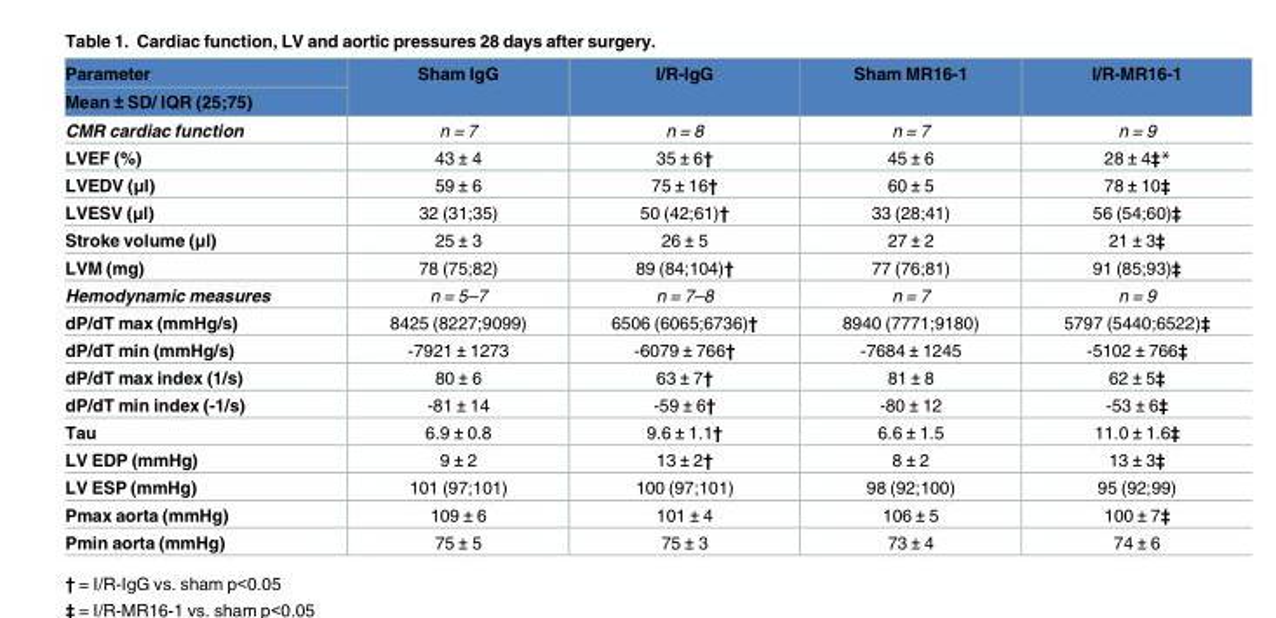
<table><thead><tr><td rowspan="2">Parameter Mean ± SD/ IQR (25;75)</td><td rowspan="2">Sham IgG</td><td rowspan="2">I/R-IgG</td><td rowspan="2">Sham MR16-1</td><td rowspan="2">I/R-MR16-1</td></tr><tr></tr></thead><tbody><tr><td>CMR cardiac function</td><td>n = 7</td><td>n = 8</td><td>n = 7</td><td>n = 9</td></tr><tr><td>LVEF (%)</td><td>43 ± 4</td><td>35 ± 6†</td><td>45 ± 6</td><td>28 ± 4‡*</td></tr><tr><td>LVEDV (μl)</td><td>59 ± 6</td><td>75 ± 16†</td><td>60 ± 5</td><td>78 ± 10‡</td></tr><tr><td>LVESV (μl)</td><td>32 (31;35)</td><td>50 (42;61)†</td><td>33 (28;41)</td><td>56 (54;60)‡</td></tr><tr><td>Stroke volume (μl)</td><td>25 ± 3</td><td>26 ± 5</td><td>27 ± 2</td><td>21 ± 3‡</td></tr><tr><td>LVM (mg)</td><td>78 (75;82)</td><td>89 (84;104)†</td><td>77 (76;81)</td><td>91 (85;93)‡</td></tr><tr><td>Hemodynamic measures</td><td>n = 5–7</td><td>n = 7–8</td><td>n = 7</td><td>n = 9</td></tr><tr><td>dP/dT max (mmHg/s)</td><td>8425 (8227;9099)</td><td>6506 (6065;6736)†</td><td>8940 (7771;9180)</td><td>5797 (5440;6522)‡</td></tr><tr><td>dP/dT min (mmHg/s)</td><td>-7921 ± 1273</td><td>-6079 ± 766†</td><td>-7684 ± 1245</td><td>-5102 ± 766‡</td></tr><tr><td>dP/dT max index (1/s)</td><td>80 ± 6</td><td>63 ± 7†</td><td>81 ± 8</td><td>62 ± 5‡</td></tr><tr><td>dP/dT min index (-1/s)</td><td>-81 ± 14</td><td>-59 ± 6†</td><td>-80 ± 12</td><td>-53 ± 6‡</td></tr><tr><td>Tau</td><td>6.9 ± 0.8</td><td>9.6 ± 1.1†</td><td>6.6 ± 1.5</td><td>11.0 ± 1.6‡</td></tr><tr><td>LV EDP (mmHg)</td><td>9 ± 2</td><td>13 ± 2†</td><td>8 ± 2</td><td>13 ± 3‡</td></tr><tr><td>LV ESP (mmHg)</td><td>101 (97;101)</td><td>100 (97;101)</td><td>98 (92;100)</td><td>95 (92;99)</td></tr><tr><td>Pmax aorta (mmHg)</td><td>109 ± 6</td><td>101 ± 4</td><td>106 ± 5</td><td>100 ± 7‡</td></tr><tr><td>Pmin aorta (mmHg)</td><td>75 ± 5</td><td>75 ± 3</td><td>73 ± 4</td><td>74 ± 6</td></tr></tbody></table>